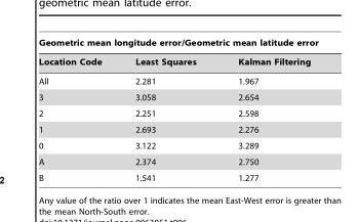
<table><thead><tr><td colspan="3">Geometric mean longitude error/Geometric mean latitude error</td></tr><tr><td>Location Code</td><td>Least Squares</td><td>Kalman Filtering</td></tr></thead><tbody><tr><td>All</td><td>2.281</td><td>1.967</td></tr><tr><td>3</td><td>3.058</td><td>2.654</td></tr><tr><td>2</td><td>2.251</td><td>2.598</td></tr><tr><td>1</td><td>2.693</td><td>2.276</td></tr><tr><td>0</td><td>3.122</td><td>3.289</td></tr><tr><td>A</td><td>2.374</td><td>2.750</td></tr><tr><td>B</td><td>1.541</td><td>1.277</td></tr></tbody></table>